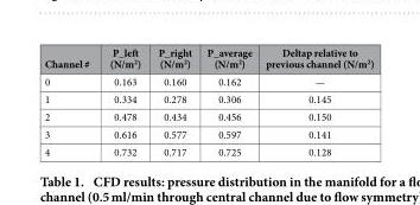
<table><thead><tr><td>Channel #</td><td>P_left (N/m<sup>2</sup>)</td><td>P_right (N/m<sup>2</sup>)</td><td>P_average (N/m<sup>2</sup>)</td><td>Deltap relative to previous channel (N/m<sup>2</sup>)</td></tr></thead><tbody><tr><td>0</td><td>0.163</td><td>0.160</td><td>0.162</td><td>—</td></tr><tr><td>1</td><td>0.334</td><td>0.278</td><td>0.306</td><td>0.145</td></tr><tr><td>2</td><td>0.478</td><td>0.434</td><td>0.456</td><td>0.150</td></tr><tr><td>3</td><td>0.616</td><td>0.577</td><td>0.597</td><td>0.141</td></tr><tr><td>4</td><td>0.732</td><td>0.717</td><td>0.725</td><td>0.128</td></tr></tbody></table>